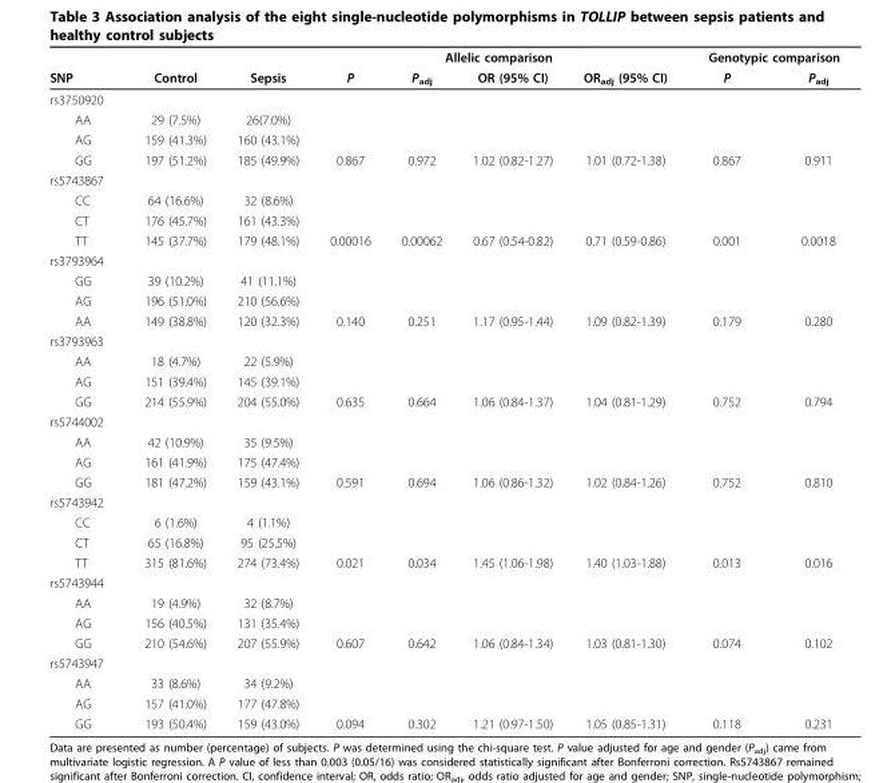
<table><thead><tr><td rowspan="2">SNP</td><td rowspan="2">Control</td><td rowspan="2">Sepsis</td><td colspan="4">Allelic comparison</td><td colspan="2">Genotypic comparison</td></tr><tr><td>P</td><td>P<sub>adj</sub></td><td>OR (95% CI)</td><td>OR<sub>adj</sub> (95% CI)</td><td>P</td><td>P<sub>adj</sub></td></tr></thead><tbody><tr><td colspan="9">rs3750920</td></tr><tr><td>AA</td><td>29 (7.5%)</td><td>26(7.0%)</td><td></td><td></td><td></td><td></td><td></td><td></td></tr><tr><td>AG</td><td>159 (41.3%)</td><td>160 (43.1%)</td><td></td><td></td><td></td><td></td><td></td><td></td></tr><tr><td>GG</td><td>197 (51.2%)</td><td>185 (49.9%)</td><td>0.867</td><td>0.972</td><td>1.02 (0.82-1.27)</td><td>1.01 (0.72-1.38)</td><td>0.867</td><td>0.911</td></tr><tr><td colspan="9">rs5743867</td></tr><tr><td>CC</td><td>64 (16.6%)</td><td>32 (8.6%)</td><td></td><td></td><td></td><td></td><td></td><td></td></tr><tr><td>CT</td><td>176 (45.7%)</td><td>161 (43.3%)</td><td></td><td></td><td></td><td></td><td></td><td></td></tr><tr><td>TT</td><td>145 (37.7%)</td><td>179 (48.1%)</td><td>0.00016</td><td>0.00062</td><td>0.67 (0.54-0.82)</td><td>0.71 (0.59-0.86)</td><td>0.001</td><td>0.0018</td></tr><tr><td colspan="9">rs3793964</td></tr><tr><td>GG</td><td>39 (10.2%)</td><td>41 (11.1%)</td><td></td><td></td><td></td><td></td><td></td><td></td></tr><tr><td>AG</td><td>196 (51.0%)</td><td>210 (56.6%)</td><td></td><td></td><td></td><td></td><td></td><td></td></tr><tr><td>AA</td><td>149 (38.8%)</td><td>120 (32.3%)</td><td>0.140</td><td>0.251</td><td>1.17 (0.95-1.44)</td><td>1.09 (0.82-1.39)</td><td>0.179</td><td>0.280</td></tr><tr><td colspan="9">rs3793963</td></tr><tr><td>AA</td><td>18 (4.7%)</td><td>22 (5.9%)</td><td></td><td></td><td></td><td></td><td></td><td></td></tr><tr><td>AG</td><td>151 (39.4%)</td><td>145 (39.1%)</td><td></td><td></td><td></td><td></td><td></td><td></td></tr><tr><td>GG</td><td>214 (55.9%)</td><td>204 (55.0%)</td><td>0.635</td><td>0.664</td><td>1.06 (0.84-1.37)</td><td>1.04 (0.81-1.29)</td><td>0.752</td><td>0.794</td></tr><tr><td colspan="9">rs5744002</td></tr><tr><td>AA</td><td>42 (10.9%)</td><td>35 (9.5%)</td><td></td><td></td><td></td><td></td><td></td><td></td></tr><tr><td>AG</td><td>161 (41.9%)</td><td>175 (47.4%)</td><td></td><td></td><td></td><td></td><td></td><td></td></tr><tr><td>GG</td><td>181 (47.2%)</td><td>159 (43.1%)</td><td>0.591</td><td>0.694</td><td>1.06 (0.86-1.32)</td><td>1.02 (0.84-1.26)</td><td>0.752</td><td>0.810</td></tr><tr><td colspan="9">rs5743942</td></tr><tr><td>CC</td><td>6 (1.6%)</td><td>4 (1.1%)</td><td></td><td></td><td></td><td></td><td></td><td></td></tr><tr><td>CT</td><td>65 (16.8%)</td><td>95 (25.5%)</td><td></td><td></td><td></td><td></td><td></td><td></td></tr><tr><td>TT</td><td>315 (81.6%)</td><td>274 (73.4%)</td><td>0.021</td><td>0.034</td><td>1.45 (1.06-1.98)</td><td>1.40 (1.03-1.88)</td><td>0.013</td><td>0.016</td></tr><tr><td colspan="9">rs5743944</td></tr><tr><td>AA</td><td>19 (4.9%)</td><td>32 (8.7%)</td><td></td><td></td><td></td><td></td><td></td><td></td></tr><tr><td>AG</td><td>156 (40.5%)</td><td>131 (35.4%)</td><td></td><td></td><td></td><td></td><td></td><td></td></tr><tr><td>GG</td><td>210 (54.6%)</td><td>207 (55.9%)</td><td>0.607</td><td>0.642</td><td>1.06 (0.84-1.34)</td><td>1.03 (0.81-1.30)</td><td>0.074</td><td>0.102</td></tr><tr><td colspan="9">rs5743947</td></tr><tr><td>AA</td><td>33 (8.6%)</td><td>34 (9.2%)</td><td></td><td></td><td></td><td></td><td></td><td></td></tr><tr><td>AG</td><td>157 (41.0%)</td><td>177 (47.8%)</td><td></td><td></td><td></td><td></td><td></td><td></td></tr><tr><td>GG</td><td>193 (50.4%)</td><td>159 (43.0%)</td><td>0.094</td><td>0.302</td><td>1.21 (0.97-1.50)</td><td>1.05 (0.85-1.31)</td><td>0.118</td><td>0.231</td></tr></tbody></table>